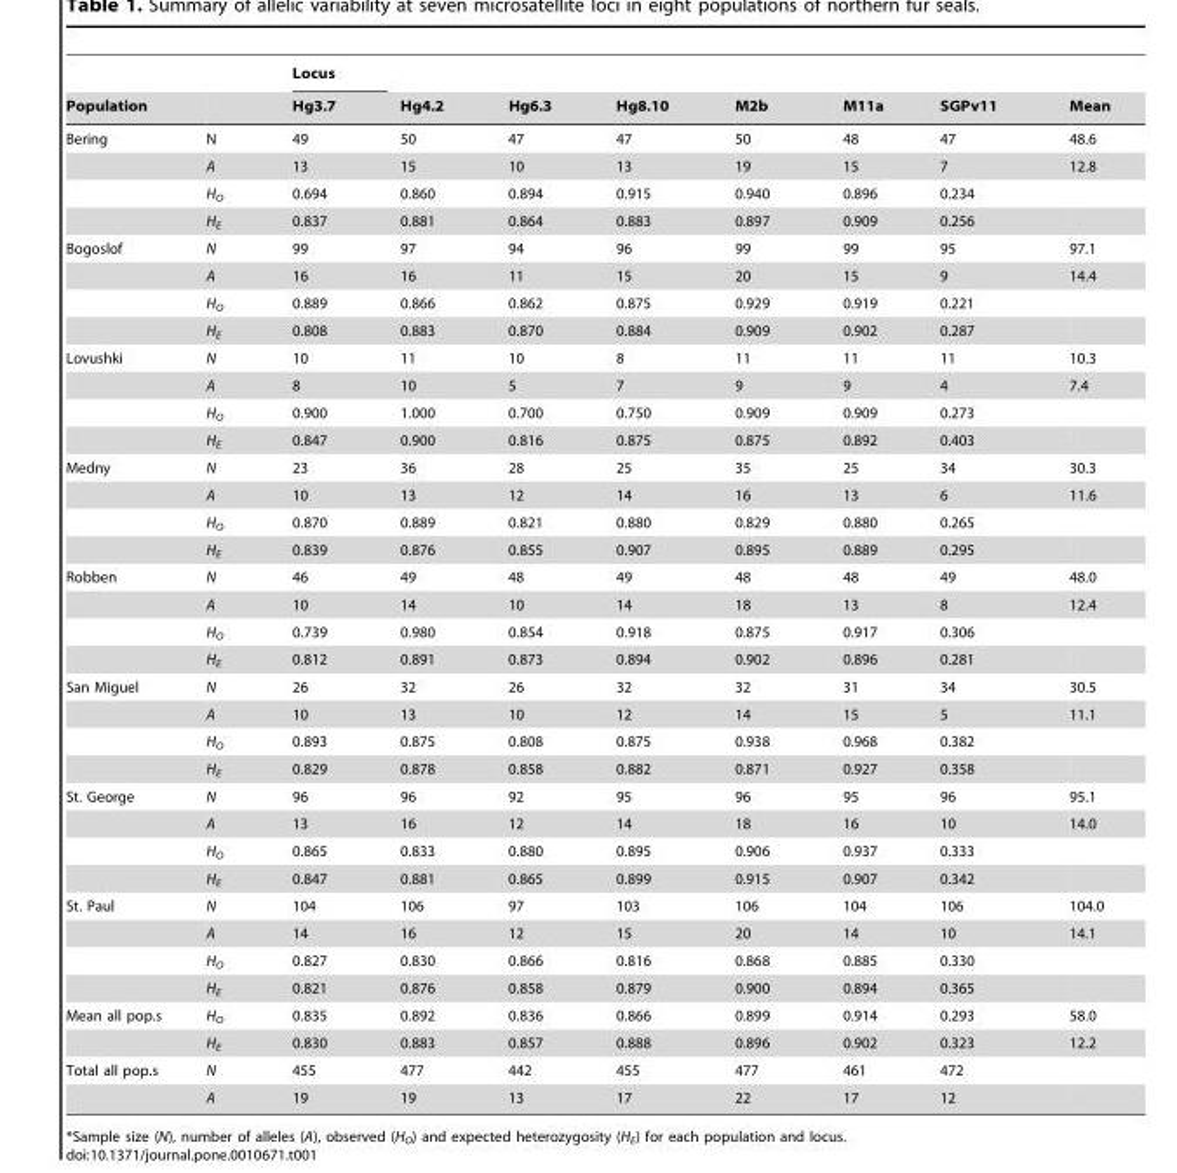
<table><thead><tr><td rowspan="2">Population</td><td rowspan="2"></td><td rowspan="2">Locus Hg3.7</td><td rowspan="2">Hg4.2</td><td rowspan="2">Hg6.3</td><td rowspan="2">Hg8.10</td><td rowspan="2">M2b</td><td rowspan="2">M11a</td><td rowspan="2">SGPv11</td><td rowspan="2">Mean</td></tr><tr></tr></thead><tbody><tr><td rowspan="4">Bering</td><td>N</td><td>49</td><td>50</td><td>47</td><td>47</td><td>50</td><td>48</td><td>47</td><td>48.6</td></tr><tr><td>A</td><td>13</td><td>15</td><td>10</td><td>13</td><td>19</td><td>15</td><td>7</td><td>12.8</td></tr><tr><td>H<sub>O</sub></td><td>0.694</td><td>0.860</td><td>0.894</td><td>0.915</td><td>0.940</td><td>0.896</td><td>0.234</td><td></td></tr><tr><td>H<sub>E</sub></td><td>0.837</td><td>0.881</td><td>0.864</td><td>0.883</td><td>0.897</td><td>0.909</td><td>0.256</td><td></td></tr><tr><td rowspan="4">Bogoslof</td><td>N</td><td>99</td><td>97</td><td>94</td><td>96</td><td>99</td><td>99</td><td>95</td><td>97.1</td></tr><tr><td>A</td><td>16</td><td>16</td><td>11</td><td>15</td><td>20</td><td>15</td><td>9</td><td>14.4</td></tr><tr><td>H<sub>O</sub></td><td>0.889</td><td>0.866</td><td>0.862</td><td>0.875</td><td>0.929</td><td>0.919</td><td>0.221</td><td></td></tr><tr><td>H<sub>E</sub></td><td>0.808</td><td>0.883</td><td>0.870</td><td>0.884</td><td>0.909</td><td>0.902</td><td>0.287</td><td></td></tr><tr><td rowspan="4">Lovushki</td><td>N</td><td>10</td><td>11</td><td>10</td><td>8</td><td>11</td><td>11</td><td>11</td><td>10.3</td></tr><tr><td>A</td><td>8</td><td>10</td><td>5</td><td>7</td><td>9</td><td>9</td><td>4</td><td>7.4</td></tr><tr><td>H<sub>O</sub></td><td>0.900</td><td>1.000</td><td>0.700</td><td>0.750</td><td>0.909</td><td>0.909</td><td>0.273</td><td></td></tr><tr><td>H<sub>E</sub></td><td>0.847</td><td>0.900</td><td>0.816</td><td>0.875</td><td>0.875</td><td>0.892</td><td>0.403</td><td></td></tr><tr><td rowspan="4">Medny</td><td>N</td><td>23</td><td>36</td><td>28</td><td>25</td><td>35</td><td>25</td><td>34</td><td>30.3</td></tr><tr><td>A</td><td>10</td><td>13</td><td>12</td><td>14</td><td>16</td><td>13</td><td>6</td><td>11.6</td></tr><tr><td>H<sub>O</sub></td><td>0.870</td><td>0.889</td><td>0.821</td><td>0.880</td><td>0.829</td><td>0.880</td><td>0.265</td><td></td></tr><tr><td>H<sub>E</sub></td><td>0.839</td><td>0.876</td><td>0.855</td><td>0.907</td><td>0.895</td><td>0.889</td><td>0.295</td><td></td></tr><tr><td rowspan="4">Robben</td><td>N</td><td>46</td><td>49</td><td>48</td><td>49</td><td>48</td><td>48</td><td>49</td><td>48.0</td></tr><tr><td>A</td><td>10</td><td>14</td><td>10</td><td>14</td><td>18</td><td>13</td><td>8</td><td>12.4</td></tr><tr><td>H<sub>O</sub></td><td>0.739</td><td>0.980</td><td>0.854</td><td>0.918</td><td>0.875</td><td>0.917</td><td>0.306</td><td></td></tr><tr><td>H<sub>E</sub></td><td>0.812</td><td>0.891</td><td>0.873</td><td>0.894</td><td>0.902</td><td>0.896</td><td>0.281</td><td></td></tr><tr><td rowspan="4">San Miguel</td><td>N</td><td>26</td><td>32</td><td>26</td><td>32</td><td>32</td><td>31</td><td>34</td><td>30.5</td></tr><tr><td>A</td><td>10</td><td>13</td><td>10</td><td>12</td><td>14</td><td>15</td><td>5</td><td>11.1</td></tr><tr><td>H<sub>O</sub></td><td>0.893</td><td>0.875</td><td>0.808</td><td>0.875</td><td>0.938</td><td>0.968</td><td>0.382</td><td></td></tr><tr><td>H<sub>E</sub></td><td>0.829</td><td>0.878</td><td>0.858</td><td>0.882</td><td>0.871</td><td>0.927</td><td>0.358</td><td></td></tr><tr><td rowspan="4">St. George</td><td>N</td><td>96</td><td>96</td><td>92</td><td>95</td><td>96</td><td>95</td><td>96</td><td>95.1</td></tr><tr><td>A</td><td>13</td><td>16</td><td>12</td><td>14</td><td>18</td><td>16</td><td>10</td><td>14.0</td></tr><tr><td>H<sub>O</sub></td><td>0.865</td><td>0.833</td><td>0.880</td><td>0.895</td><td>0.906</td><td>0.937</td><td>0.333</td><td></td></tr><tr><td>H<sub>E</sub></td><td>0.847</td><td>0.881</td><td>0.865</td><td>0.899</td><td>0.915</td><td>0.907</td><td>0.342</td><td></td></tr><tr><td rowspan="4">St. Paul</td><td>N</td><td>104</td><td>106</td><td>97</td><td>103</td><td>106</td><td>104</td><td>106</td><td>104.0</td></tr><tr><td>A</td><td>14</td><td>16</td><td>12</td><td>15</td><td>20</td><td>14</td><td>10</td><td>14.1</td></tr><tr><td>H<sub>O</sub></td><td>0.827</td><td>0.830</td><td>0.866</td><td>0.816</td><td>0.868</td><td>0.885</td><td>0.330</td><td></td></tr><tr><td>H<sub>E</sub></td><td>0.821</td><td>0.876</td><td>0.858</td><td>0.879</td><td>0.900</td><td>0.894</td><td>0.365</td><td></td></tr><tr><td rowspan="2">Mean all pop.s</td><td>H<sub>O</sub></td><td>0.835</td><td>0.892</td><td>0.836</td><td>0.866</td><td>0.899</td><td>0.914</td><td>0.293</td><td>58.0</td></tr><tr><td>H<sub>E</sub></td><td>0.830</td><td>0.883</td><td>0.857</td><td>0.888</td><td>0.896</td><td>0.902</td><td>0.323</td><td>12.2</td></tr><tr><td rowspan="2">Total all pop.s</td><td>N</td><td>455</td><td>477</td><td>442</td><td>455</td><td>477</td><td>461</td><td>472</td><td></td></tr><tr><td>A</td><td>19</td><td>19</td><td>13</td><td>17</td><td>22</td><td>17</td><td>12</td><td></td></tr></tbody></table>